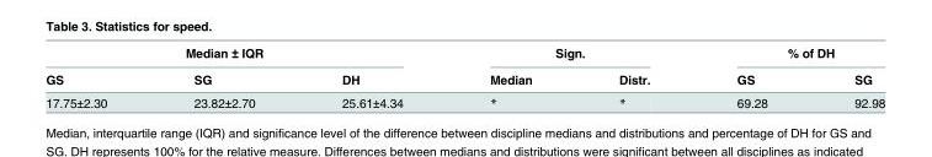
<table><thead><tr><td colspan="3">Median ± IQR</td><td colspan="2">Sign.</td><td colspan="2">% of DH</td></tr><tr><td>GS</td><td>SG</td><td>DH</td><td>Median</td><td>Distr.</td><td>GS</td><td>SG</td></tr></thead><tbody><tr><td>17.75±2.30</td><td>23.82±2.70</td><td>25.61±4.34</td><td>*</td><td>*</td><td>69.28</td><td>92.98</td></tr></tbody></table>